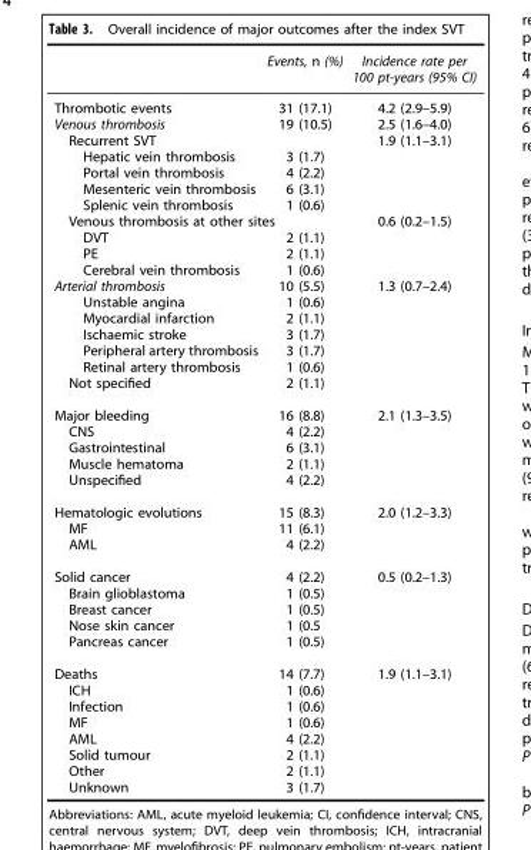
<table><thead><tr><td></td><td>Events, n (%)</td><td>Incidence rate per 100 pt-years (95% CI)</td></tr></thead><tbody><tr><td>Thrombotic events</td><td>31 (17.1)</td><td>4.2 (2.9–5.9)</td></tr><tr><td>Venous thrombosis</td><td>19 (10.5)</td><td>2.5 (1.6–4.0)</td></tr><tr><td>Recurrent SVT</td><td></td><td>1.9 (1.1–3.1)</td></tr><tr><td>Hepatic vein thrombosis</td><td>3 (1.7)</td><td></td></tr><tr><td>Portal vein thrombosis</td><td>4 (2.2)</td><td></td></tr><tr><td>Mesenteric vein thrombosis</td><td>6 (3.1)</td><td></td></tr><tr><td>Splenic vein thrombosis</td><td>1 (0.6)</td><td></td></tr><tr><td colspan="2">Venous thrombosis at other sites</td><td>0.6 (0.2–1.5)</td></tr><tr><td>DVT</td><td>2 (1.1)</td><td></td></tr><tr><td>PE</td><td>2 (1.1)</td><td></td></tr><tr><td>Cerebral vein thrombosis</td><td>1 (0.6)</td><td></td></tr><tr><td>Arterial thrombosis</td><td>10 (5.5)</td><td>1.3 (0.7–2.4)</td></tr><tr><td>Unstable angina</td><td>1 (0.6)</td><td></td></tr><tr><td>Myocardial infarction</td><td>2 (1.1)</td><td></td></tr><tr><td>Ischaemic stroke</td><td>3 (1.7)</td><td></td></tr><tr><td>Peripheral artery thrombosis</td><td>3 (1.7)</td><td></td></tr><tr><td>Retinal artery thrombosis</td><td>1 (0.6)</td><td></td></tr><tr><td>Not specified</td><td>2 (1.1)</td><td></td></tr><tr><td>Major bleeding</td><td>16 (8.8)</td><td>2.1 (1.3–3.5)</td></tr><tr><td>CNS</td><td>4 (2.2)</td><td></td></tr><tr><td>Gastrointestinal</td><td>6 (3.1)</td><td></td></tr><tr><td>Muscle hematoma</td><td>2 (1.1)</td><td></td></tr><tr><td>Unspecified</td><td>4 (2.2)</td><td></td></tr><tr><td>Hematologic evolutions</td><td>15 (8.3)</td><td>2.0 (1.2–3.3)</td></tr><tr><td>MF</td><td>11 (6.1)</td><td></td></tr><tr><td>AML</td><td>4 (2.2)</td><td></td></tr><tr><td>Solid cancer</td><td>4 (2.2)</td><td>0.5 (0.2–1.3)</td></tr><tr><td>Brain glioblastoma</td><td>1 (0.5)</td><td></td></tr><tr><td>Breast cancer</td><td>1 (0.5)</td><td></td></tr><tr><td>Nose skin cancer</td><td>1 (0.5</td><td></td></tr><tr><td>Pancreas cancer</td><td>1 (0.5)</td><td></td></tr><tr><td>Deaths</td><td>14 (7.7)</td><td>1.9 (1.1–3.1)</td></tr><tr><td>ICH</td><td>1 (0.6)</td><td></td></tr><tr><td>Infection</td><td>1 (0.6)</td><td></td></tr><tr><td>MF</td><td>1 (0.6)</td><td></td></tr><tr><td>AML</td><td>4 (2.2)</td><td></td></tr><tr><td>Solid tumour</td><td>2 (1.1)</td><td></td></tr><tr><td>Other</td><td>2 (1.1)</td><td></td></tr><tr><td>Unknown</td><td>3 (1.7)</td><td></td></tr></tbody></table>